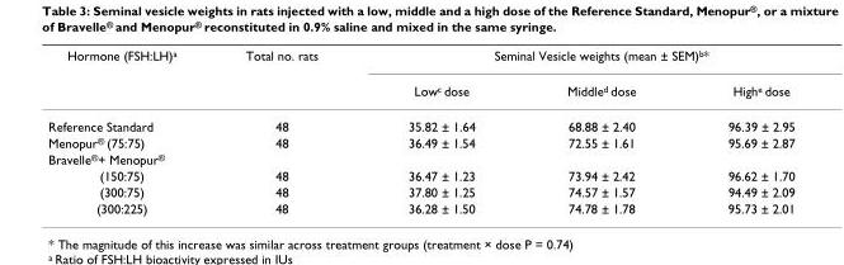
<table><thead><tr><td rowspan="2">Hormone (FSH:LH)<sup>a</sup></td><td rowspan="2">Total no. rats</td><td colspan="3">Seminal Vesicle weights (mean ± SEM)<sup>b</sup>*</td></tr><tr><td>Low<sup>c</sup> dose</td><td>Middle<sup>d</sup> dose</td><td>High<sup>e</sup> dose</td></tr></thead><tbody><tr><td>Reference Standard</td><td>48</td><td>35.82 ± 1.64</td><td>68.88 ± 2.40</td><td>96.39 ± 2.95</td></tr><tr><td>Menopur<sup>®</sup> (75:75)</td><td>48</td><td>36.49 ± 1.54</td><td>72.55 ± 1.61</td><td>95.69 ± 2.87</td></tr><tr><td colspan="5">Bravelle<sup>®</sup>+ Menopur<sup>®</sup></td></tr><tr><td>(150:75)</td><td>48</td><td>36.47 ± 1.23</td><td>73.94 ± 2.42</td><td>96.62 ± 1.70</td></tr><tr><td>(300:75)</td><td>48</td><td>37.80 ± 1.25</td><td>74.57 ± 1.57</td><td>94.49 ± 2.09</td></tr><tr><td>(300:225)</td><td>48</td><td>36.28 ± 1.50</td><td>74.78 ± 1.78</td><td>95.73 ± 2.01</td></tr></tbody></table>